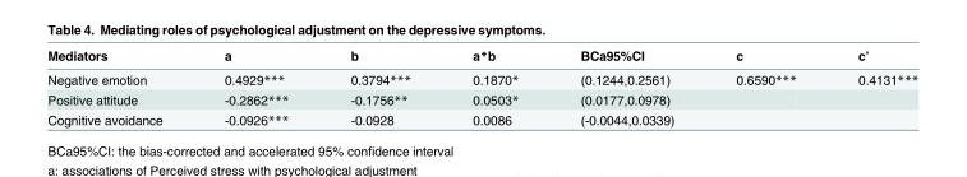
<table><thead><tr><td>Mediators</td><td>a</td><td>b</td><td>a*b</td><td>BCa95%CI</td><td>c</td><td>c’</td></tr></thead><tbody><tr><td>Negative emotion</td><td>0.4929***</td><td>0.3794***</td><td>0.1870*</td><td>(0.1244,0.2561)</td><td>0.6590***</td><td>0.4131***</td></tr><tr><td>Positive attitude</td><td>-0.2862***</td><td>-0.1756**</td><td>0.0503*</td><td>(0.0177,0.0978)</td><td></td><td></td></tr><tr><td>Cognitive avoidance</td><td>-0.0926***</td><td>-0.0928</td><td>0.0086</td><td>(-0.0044,0.0339)</td><td></td><td></td></tr></tbody></table>